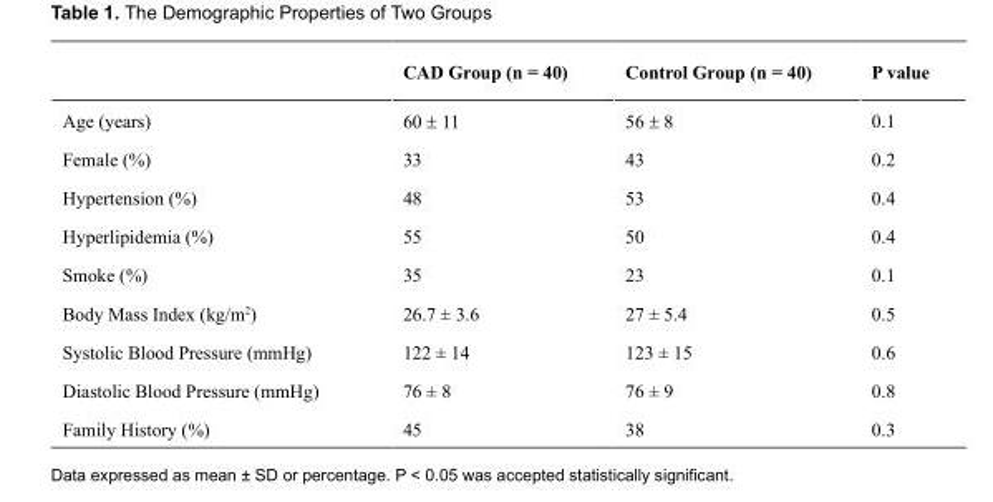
<table><thead><tr><td></td><td>CAD Group (n = 40)</td><td>Control Group (n = 40)</td><td>P value</td></tr></thead><tbody><tr><td>Age (years)</td><td>60 ± 11</td><td>56 ± 8</td><td>0.1</td></tr><tr><td>Female (%)</td><td>33</td><td>43</td><td>0.2</td></tr><tr><td>Hypertension (%)</td><td>48</td><td>53</td><td>0.4</td></tr><tr><td>Hyperlipidemia (%)</td><td>55</td><td>50</td><td>0.4</td></tr><tr><td>Smoke (%)</td><td>35</td><td>23</td><td>0.1</td></tr><tr><td>Body Mass Index (kg/m<sup>2</sup>)</td><td>26.7 ± 3.6</td><td>27 ± 5.4</td><td>0.5</td></tr><tr><td>Systolic Blood Pressure (mmHg)</td><td>122 ± 14</td><td>123 ± 15</td><td>0.6</td></tr><tr><td>Diastolic Blood Pressure (mmHg)</td><td>76 ± 8</td><td>76 ± 9</td><td>0.8</td></tr><tr><td>Family History (%)</td><td>45</td><td>38</td><td>0.3</td></tr></tbody></table>